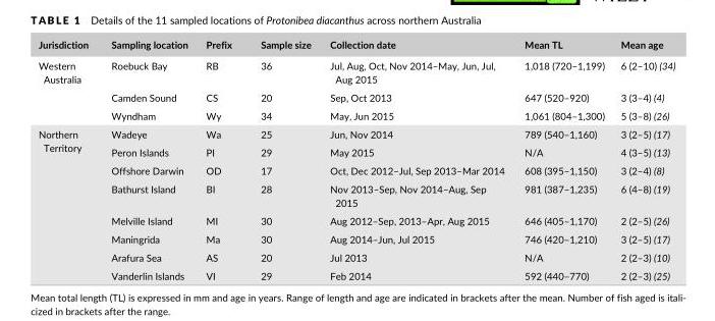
<table><thead><tr><td>Jurisdiction</td><td>Sampling location</td><td>Prefix</td><td>Sample size</td><td>Collection date</td><td>Mean TL</td><td>Mean age</td></tr></thead><tbody><tr><td rowspan="3">Western Australia</td><td>Roebuck Bay</td><td>RB</td><td>36</td><td>Jul, Aug, Oct, Nov 2014–May, Jun, Jul, Aug 2015</td><td>1,018 (720–1,199)</td><td>6 (2–10) (34)</td></tr><tr><td>Camden Sound</td><td>CS</td><td>20</td><td>Sep, Oct 2013</td><td>647 (520–920)</td><td>3 (3–4) (4)</td></tr><tr><td>Wyndham</td><td>Wy</td><td>34</td><td>May, Jun 2015</td><td>1,061 (804–1,300)</td><td>5 (3–8) (26)</td></tr><tr><td rowspan="8">Northern Territory</td><td>Wadeye</td><td>Wa</td><td>25</td><td>Jun, Nov 2014</td><td>789 (540–1,160)</td><td>3 (2–5) (17)</td></tr><tr><td>Peron Islands</td><td>PI</td><td>29</td><td>May 2015</td><td>N/A</td><td>4 (3–5) (13)</td></tr><tr><td>Offshore Darwin</td><td>OD</td><td>17</td><td>Oct, Dec 2012–Jul, Sep 2013–Mar 2014</td><td>608 (395–1,150)</td><td>3 (2–4) (8)</td></tr><tr><td>Bathurst Island</td><td>BI</td><td>28</td><td>Nov 2013–Sep, Nov 2014–Aug, Sep 2015</td><td>981 (387–1,235)</td><td>6 (4–8) (19)</td></tr><tr><td>Melville Island</td><td>MI</td><td>30</td><td>Aug 2012–Sep, 2013–Apr, Aug 2015</td><td>646 (405–1,170)</td><td>2 (2–5) (26)</td></tr><tr><td>Maningrida</td><td>Ma</td><td>30</td><td>Aug 2014–Jun, Jul 2015</td><td>746 (420–1,210)</td><td>3 (2–5) (17)</td></tr><tr><td>Arafura Sea</td><td>AS</td><td>20</td><td>Jul 2013</td><td>N/A</td><td>2 (2–3) (10)</td></tr><tr><td>Vanderlin Islands</td><td>VI</td><td>29</td><td>Feb 2014</td><td>592 (440–770)</td><td>2 (2–3) (25)</td></tr></tbody></table>